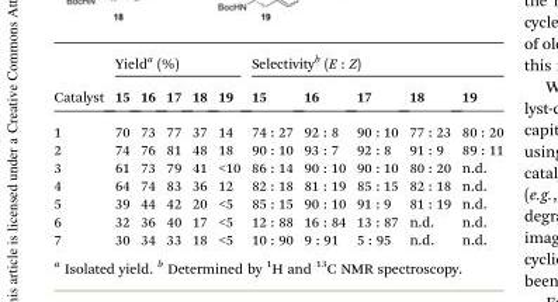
<table><thead><tr><td rowspan="2">Catalyst</td><td colspan="5">Yield<sup>a</sup> (%)</td><td colspan="5">Selectivity<sup>b</sup> (E : Z)</td></tr><tr><td>15</td><td>16</td><td>17</td><td>18</td><td>19</td><td>15</td><td>16</td><td>17</td><td>18</td><td>19</td></tr></thead><tbody><tr><td>1</td><td>70</td><td>73</td><td>77</td><td>37</td><td>14</td><td>74 : 27</td><td>92 : 8</td><td>90 : 10</td><td>77 : 23</td><td>80 : 20</td></tr><tr><td>2</td><td>74</td><td>76</td><td>81</td><td>48</td><td>18</td><td>90 : 10</td><td>93 : 7</td><td>92 : 8</td><td>91 : 9</td><td>89 : 11</td></tr><tr><td>3</td><td>61</td><td>73</td><td>79</td><td>41</td><td>&lt;10</td><td>86 : 14</td><td>90 : 10</td><td>90 : 10</td><td>80 : 20</td><td>n.d.</td></tr><tr><td>4</td><td>64</td><td>74</td><td>83</td><td>36</td><td>12</td><td>82 : 18</td><td>81 : 19</td><td>85 : 15</td><td>82 : 18</td><td>n.d.</td></tr><tr><td>5</td><td>39</td><td>44</td><td>42</td><td>20</td><td>&lt;5</td><td>85 : 15</td><td>90 : 10</td><td>91 : 9</td><td>81 : 19</td><td>n.d.</td></tr><tr><td>6</td><td>32</td><td>36</td><td>40</td><td>17</td><td>&lt;5</td><td>12 : 88</td><td>16 : 84</td><td>13 : 87</td><td>n.d.</td><td>n.d.</td></tr><tr><td>7</td><td>30</td><td>34</td><td>33</td><td>18</td><td>&lt;5</td><td>10 : 90</td><td>9 : 91</td><td>5 : 95</td><td>n.d.</td><td>n.d.</td></tr></tbody></table>